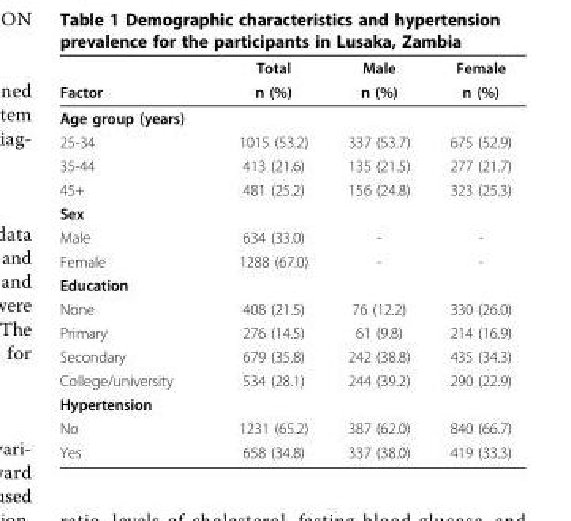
<table><thead><tr><td rowspan="2">Factor</td><td rowspan="2">Total n (%)</td><td rowspan="2">Male n (%)</td><td rowspan="2">Female n (%)</td></tr><tr></tr></thead><tbody><tr><td colspan="4">Age group (years)</td></tr><tr><td>25-34</td><td>1015 (53.2)</td><td>337 (53.7)</td><td>675 (52.9)</td></tr><tr><td>35-44</td><td>413 (21.6)</td><td>135 (21.5)</td><td>277 (21.7)</td></tr><tr><td>45+</td><td>481 (25.2)</td><td>156 (24.8)</td><td>323 (25.3)</td></tr><tr><td colspan="4">Sex</td></tr><tr><td>Male</td><td>634 (33.0)</td><td>-</td><td>-</td></tr><tr><td>Female</td><td>1288 (67.0)</td><td>-</td><td>-</td></tr><tr><td colspan="4">Education</td></tr><tr><td>None</td><td>408 (21.5)</td><td>76 (12.2)</td><td>330 (26.0)</td></tr><tr><td>Primary</td><td>276 (14.5)</td><td>61 (9.8)</td><td>214 (16.9)</td></tr><tr><td>Secondary</td><td>679 (35.8)</td><td>242 (38.8)</td><td>435 (34.3)</td></tr><tr><td>College/university</td><td>534 (28.1)</td><td>244 (39.2)</td><td>290 (22.9)</td></tr><tr><td colspan="4">Hypertension</td></tr><tr><td>No</td><td>1231 (65.2)</td><td>387 (62.0)</td><td>840 (66.7)</td></tr><tr><td>Yes</td><td>658 (34.8)</td><td>337 (38.0)</td><td>419 (33.3)</td></tr></tbody></table>